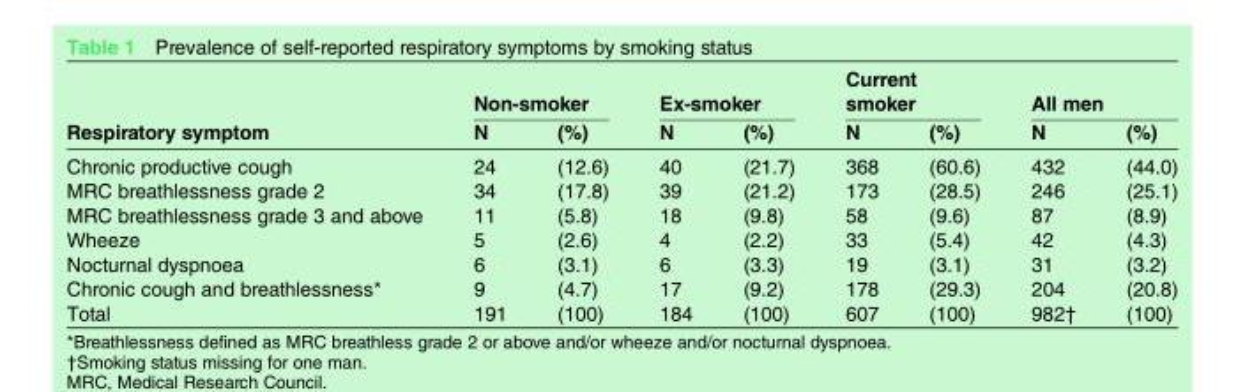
<table><thead><tr><td rowspan="2">Respiratory symptom</td><td colspan="2">Non-smoker</td><td colspan="2">Ex-smoker</td><td colspan="2">Current smoker</td><td colspan="2">All men</td></tr><tr><td>N</td><td>(%)</td><td>N</td><td>(%)</td><td>N</td><td>(%)</td><td>N</td><td>(%)</td></tr></thead><tbody><tr><td>Chronic productive cough</td><td>24</td><td>(12.6)</td><td>40</td><td>(21.7)</td><td>368</td><td>(60.6)</td><td>432</td><td>(44.0)</td></tr><tr><td>MRC breathlessness grade 2</td><td>34</td><td>(17.8)</td><td>39</td><td>(21.2)</td><td>173</td><td>(28.5)</td><td>246</td><td>(25.1)</td></tr><tr><td>MRC breathlessness grade 3 and above</td><td>11</td><td>(5.8)</td><td>18</td><td>(9.8)</td><td>58</td><td>(9.6)</td><td>87</td><td>(8.9)</td></tr><tr><td>Wheeze</td><td>5</td><td>(2.6)</td><td>4</td><td>(2.2)</td><td>33</td><td>(5.4)</td><td>42</td><td>(4.3)</td></tr><tr><td>Nocturnal dyspnoea</td><td>6</td><td>(3.1)</td><td>6</td><td>(3.3)</td><td>19</td><td>(3.1)</td><td>31</td><td>(3.2)</td></tr><tr><td>Chronic cough and breathlessness*</td><td>9</td><td>(4.7)</td><td>17</td><td>(9.2)</td><td>178</td><td>(29.3)</td><td>204</td><td>(20.8)</td></tr><tr><td>Total</td><td>191</td><td>(100)</td><td>184</td><td>(100)</td><td>607</td><td>(100)</td><td>982†</td><td>(100)</td></tr></tbody></table>